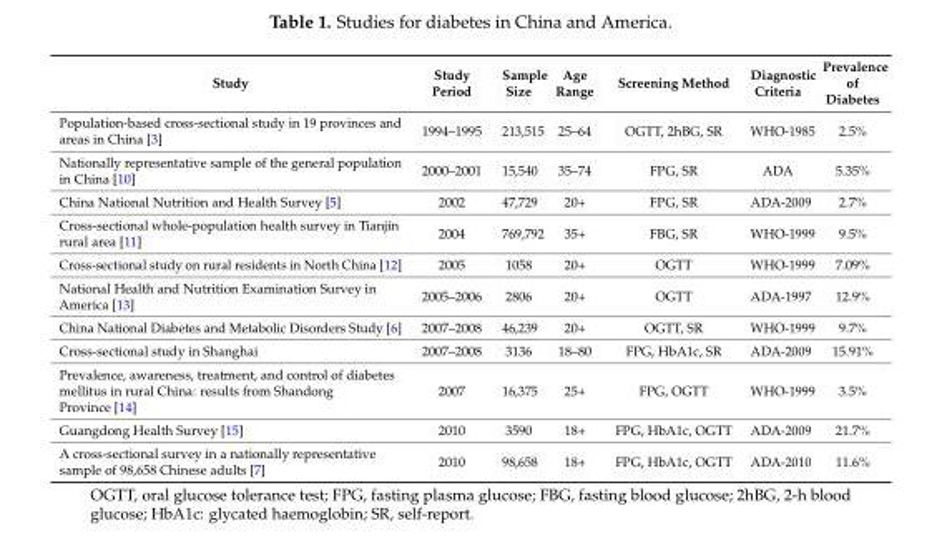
<table><thead><tr><td>Study</td><td>Study Period</td><td>Sample Size</td><td>Age Range</td><td>Screening Method</td><td>Diagnostic Criteria</td><td>Prevalence of Diabetes</td></tr></thead><tbody><tr><td>Population-based cross-sectional study in 19 provinces and areas in China [3]</td><td>1994–1995</td><td>213,515</td><td>25–64</td><td>OGTT, 2hBG, SR</td><td>WHO-1985</td><td>2.5%</td></tr><tr><td>Nationally representative sample of the general population in China [10]</td><td>2000–2001</td><td>15,540</td><td>35–74</td><td>FPG, SR</td><td>ADA</td><td>5.35%</td></tr><tr><td>China National Nutrition and Health Survey [5]</td><td>2002</td><td>47,729</td><td>20+</td><td>FPG, SR</td><td>ADA-2009</td><td>2.7%</td></tr><tr><td>Cross-sectional whole-population health survey in Tianjin rural area [11]</td><td>2004</td><td>769,792</td><td>35+</td><td>FBG, SR</td><td>WHO-1999</td><td>9.5%</td></tr><tr><td>Cross-sectional study on rural residents in North China [12]</td><td>2005</td><td>1058</td><td>20+</td><td>OGTT</td><td>WHO-1999</td><td>7.09%</td></tr><tr><td>National Health and Nutrition Examination Survey in America [13]</td><td>2005–2006</td><td>2806</td><td>20+</td><td>OGTT</td><td>ADA-1997</td><td>12.9%</td></tr><tr><td>China National Diabetes and Metabolic Disorders Study [6]</td><td>2007–2008</td><td>46,239</td><td>20+</td><td>OGTT, SR</td><td>WHO-1999</td><td>9.7%</td></tr><tr><td>Cross-sectional study in Shanghai</td><td>2007–2008</td><td>3136</td><td>18–80</td><td>FPG, HbA1c, SR</td><td>ADA-2009</td><td>15.91%</td></tr><tr><td>Prevalence, awareness, treatment, and control of diabetes mellitus in rural China: results from Shandong Province [14]</td><td>2007</td><td>16,375</td><td>25+</td><td>FPG, OGTT</td><td>WHO-1999</td><td>3.5%</td></tr><tr><td>Guangdong Health Survey [15]</td><td>2010</td><td>3590</td><td>18+</td><td>FPG, HbA1c, OGTT</td><td>ADA-2009</td><td>21.7%</td></tr><tr><td>A cross-sectional survey in a nationally representative sample of 98,658 Chinese adults [7]</td><td>2010</td><td>98,658</td><td>18+</td><td>FPG, HbA1c, OGTT</td><td>ADA-2010</td><td>11.6%</td></tr></tbody></table>